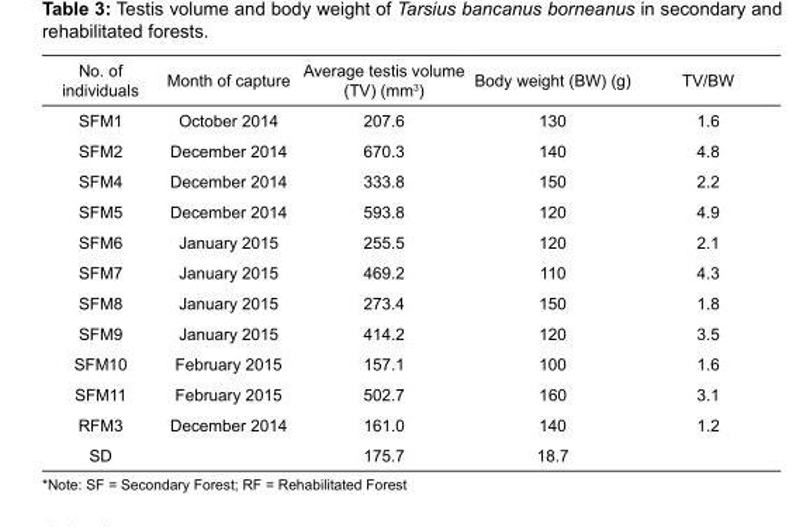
<table><thead><tr><td>No. of individuals</td><td>Month of capture</td><td>Average testis volume (TV) (mm<sup>3</sup>)</td><td>Body weight (BW) (g)</td><td>TV/BW</td></tr></thead><tbody><tr><td>SFM1</td><td>October 2014</td><td>207.6</td><td>130</td><td>1.6</td></tr><tr><td>SFM2</td><td>December 2014</td><td>670.3</td><td>140</td><td>4.8</td></tr><tr><td>SFM4</td><td>December 2014</td><td>333.8</td><td>150</td><td>2.2</td></tr><tr><td>SFM5</td><td>December 2014</td><td>593.8</td><td>120</td><td>4.9</td></tr><tr><td>SFM6</td><td>January 2015</td><td>255.5</td><td>120</td><td>2.1</td></tr><tr><td>SFM7</td><td>January 2015</td><td>469.2</td><td>110</td><td>4.3</td></tr><tr><td>SFM8</td><td>January 2015</td><td>273.4</td><td>150</td><td>1.8</td></tr><tr><td>SFM9</td><td>January 2015</td><td>414.2</td><td>120</td><td>3.5</td></tr><tr><td>SFM10</td><td>February 2015</td><td>157.1</td><td>100</td><td>1.6</td></tr><tr><td>SFM11</td><td>February 2015</td><td>502.7</td><td>160</td><td>3.1</td></tr><tr><td>RFM3</td><td>December 2014</td><td>161.0</td><td>140</td><td>1.2</td></tr><tr><td>SD</td><td></td><td>175.7</td><td>18.7</td><td></td></tr></tbody></table>